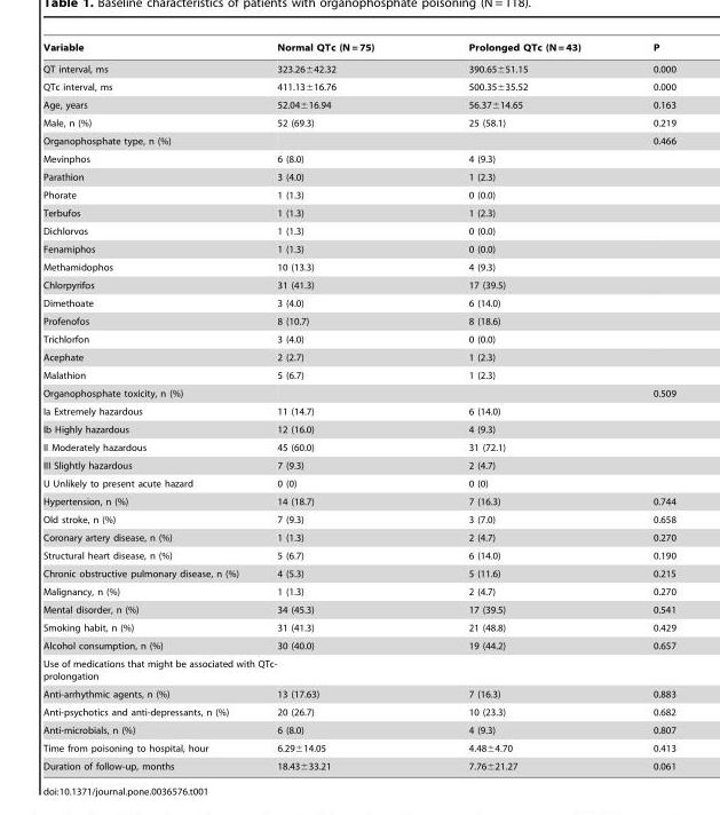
<table><thead><tr><td>Variable</td><td>Normal QTc (N = 75)</td><td>Prolonged QTc (N = 43)</td><td>P</td></tr></thead><tbody><tr><td>QT interval, ms</td><td>323.26±42.32</td><td>390.65±51.15</td><td>0.000</td></tr><tr><td>QTc interval, ms</td><td>411.13±16.76</td><td>500.35±35.52</td><td>0.000</td></tr><tr><td>Age, years</td><td>52.04±16.94</td><td>56.37±14.65</td><td>0.163</td></tr><tr><td>Male, n (%)</td><td>52 (69.3)</td><td>25 (58.1)</td><td>0.219</td></tr><tr><td>Organophosphate type, n (%)</td><td></td><td></td><td>0.466</td></tr><tr><td>Mevinphos</td><td>6 (8.0)</td><td>4 (9.3)</td><td></td></tr><tr><td>Parathion</td><td>3 (4.0)</td><td>1 (2.3)</td><td></td></tr><tr><td>Phorate</td><td>1 (1.3)</td><td>0 (0.0)</td><td></td></tr><tr><td>Terbufos</td><td>1 (1.3)</td><td>1 (2.3)</td><td></td></tr><tr><td>Dichlorvos</td><td>1 (1.3)</td><td>0 (0.0)</td><td></td></tr><tr><td>Fenamiphos</td><td>1 (1.3)</td><td>0 (0.0)</td><td></td></tr><tr><td>Methamidophos</td><td>10 (13.3)</td><td>4 (9.3)</td><td></td></tr><tr><td>Chlorpyrifos</td><td>31 (41.3)</td><td>17 (39.5)</td><td></td></tr><tr><td>Dimethoate</td><td>3 (4.0)</td><td>6 (14.0)</td><td></td></tr><tr><td>Profenofos</td><td>8 (10.7)</td><td>8 (18.6)</td><td></td></tr><tr><td>Trichlorfon</td><td>3 (4.0)</td><td>0 (0.0)</td><td></td></tr><tr><td>Acephate</td><td>2 (2.7)</td><td>1 (2.3)</td><td></td></tr><tr><td>Malathion</td><td>5 (6.7)</td><td>1 (2.3)</td><td></td></tr><tr><td>Organophosphate toxicity, n (%)</td><td></td><td></td><td>0.509</td></tr><tr><td>Ia Extremely hazardous</td><td>11 (14.7)</td><td>6 (14.0)</td><td></td></tr><tr><td>Ib Highly hazardous</td><td>12 (16.0)</td><td>4 (9.3)</td><td></td></tr><tr><td>II Moderately hazardous</td><td>45 (60.0)</td><td>31 (72.1)</td><td></td></tr><tr><td>III Slightly hazardous</td><td>7 (9.3)</td><td>2 (4.7)</td><td></td></tr><tr><td>U Unlikely to present acute hazard</td><td>0 (0)</td><td>0 (0)</td><td></td></tr><tr><td>Hypertension, n (%)</td><td>14 (18.7)</td><td>7 (16.3)</td><td>0.744</td></tr><tr><td>Old stroke, n (%)</td><td>7 (9.3)</td><td>3 (7.0)</td><td>0.658</td></tr><tr><td>Coronary artery disease, n (%)</td><td>1 (1.3)</td><td>2 (4.7)</td><td>0.270</td></tr><tr><td>Structural heart disease, n (%)</td><td>5 (6.7)</td><td>6 (14.0)</td><td>0.190</td></tr><tr><td>Chronic obstructive pulmonary disease, n (%)</td><td>4 (5.3)</td><td>5 (11.6)</td><td>0.215</td></tr><tr><td>Malignancy, n (%)</td><td>1 (1.3)</td><td>2 (4.7)</td><td>0.270</td></tr><tr><td>Mental disorder, n (%)</td><td>34 (45.3)</td><td>17 (39.5)</td><td>0.541</td></tr><tr><td>Smoking habit, n (%)</td><td>31 (41.3)</td><td>21 (48.8)</td><td>0.429</td></tr><tr><td>Alcohol consumption, n (%)</td><td>30 (40.0)</td><td>19 (44.2)</td><td>0.657</td></tr><tr><td colspan="4">Use of medications that might be associated with QTc- prolongation</td></tr><tr><td>Anti-arrhythmic agents, n (%)</td><td>13 (17.63)</td><td>7 (16.3)</td><td>0.883</td></tr><tr><td>Anti-psychotics and anti-depressants, n (%)</td><td>20 (26.7)</td><td>10 (23.3)</td><td>0.682</td></tr><tr><td>Anti-microbials, n (%)</td><td>6 (8.0)</td><td>4 (9.3)</td><td>0.807</td></tr><tr><td>Time from poisoning to hospital, hour</td><td>6.29±14.05</td><td>4.48±4.70</td><td>0.413</td></tr><tr><td>Duration of follow-up, months</td><td>18.43±33.21</td><td>7.76±21.27</td><td>0.061</td></tr></tbody></table>